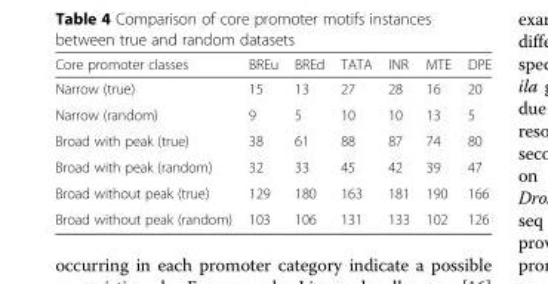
<table><thead><tr><td>Core promoter classes</td><td>BREu</td><td>BREd</td><td>TATA</td><td>INR</td><td>MTE</td><td>DPE</td></tr></thead><tbody><tr><td>Narrow (true)</td><td>15</td><td>13</td><td>27</td><td>28</td><td>16</td><td>20</td></tr><tr><td>Narrow (random)</td><td>9</td><td>5</td><td>10</td><td>10</td><td>13</td><td>5</td></tr><tr><td>Broad with peak (true)</td><td>38</td><td>61</td><td>88</td><td>87</td><td>74</td><td>80</td></tr><tr><td>Broad with peak (random)</td><td>32</td><td>33</td><td>45</td><td>42</td><td>39</td><td>47</td></tr><tr><td>Broad without peak (true)</td><td>129</td><td>180</td><td>163</td><td>181</td><td>190</td><td>166</td></tr><tr><td>Broad without peak (random)</td><td>103</td><td>106</td><td>131</td><td>133</td><td>102</td><td>126</td></tr></tbody></table>